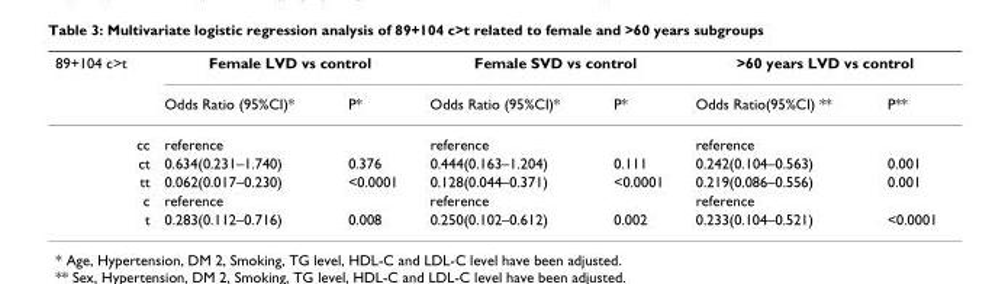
<table><thead><tr><td rowspan="2">89+104 c&gt;t</td><td colspan="2">Female LVD vs control</td><td colspan="2">Female SVD vs control</td><td colspan="2">&gt;60 years LVD vs control</td></tr><tr><td>Odds Ratio (95%CI)*</td><td>P*</td><td>Odds Ratio (95%CI)*</td><td>P*</td><td>Odds Ratio(95%CI) **</td><td>P**</td></tr></thead><tbody><tr><td>cc</td><td>reference</td><td></td><td>reference</td><td></td><td>reference</td><td></td></tr><tr><td>ct</td><td>0.634(0.231–1.740)</td><td>0.376</td><td>0.444(0.163–1.204)</td><td>0.111</td><td>0.242(0.104–0.563)</td><td>0.001</td></tr><tr><td>tt</td><td>0.062(0.017–0.230)</td><td>&lt;0.0001</td><td>0.128(0.044–0.371)</td><td>&lt;0.0001</td><td>0.219(0.086–0.556)</td><td>0.001</td></tr><tr><td>c</td><td>reference</td><td></td><td>reference</td><td></td><td>reference</td><td></td></tr><tr><td>t</td><td>0.283(0.112–0.716)</td><td>0.008</td><td>0.250(0.102–0.612)</td><td>0.002</td><td>0.233(0.104–0.521)</td><td>&lt;0.0001</td></tr></tbody></table>